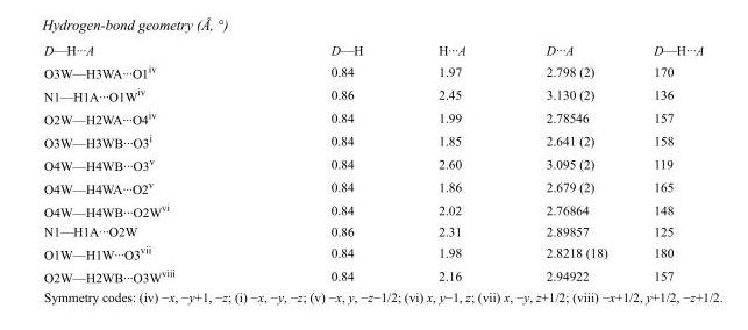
<table><tbody><tr><td>D—H···A</td><td>D—H</td><td>H···A</td><td>D···A</td><td>D—H···A</td></tr><tr><td>O3W—H3WA···O1<sup>iv</sup></td><td>0.84</td><td>1.97</td><td>2.798 (2)</td><td>170</td></tr><tr><td>N1—H1A···O1W<sup>iv</sup></td><td>0.86</td><td>2.45</td><td>3.130 (2)</td><td>136</td></tr><tr><td>O2W—H2WA···O4<sup>iv</sup></td><td>0.84</td><td>1.99</td><td>2.78546</td><td>157</td></tr><tr><td>O3W—H3WB···O3<sup>i</sup></td><td>0.84</td><td>1.85</td><td>2.641 (2)</td><td>158</td></tr><tr><td>O4W—H4WB···O3<sup>v</sup></td><td>0.84</td><td>2.60</td><td>3.095 (2)</td><td>119</td></tr><tr><td>O4W—H4WA···O2<sup>v</sup></td><td>0.84</td><td>1.86</td><td>2.679 (2)</td><td>165</td></tr><tr><td>O4W—H4WB···O2W<sup>vi</sup></td><td>0.84</td><td>2.02</td><td>2.76864</td><td>148</td></tr><tr><td>N1—H1A···O2W</td><td>0.86</td><td>2.31</td><td>2.89857</td><td>125</td></tr><tr><td>O1W—H1W···O3<sup>vii</sup></td><td>0.84</td><td>1.98</td><td>2.8218 (18)</td><td>180</td></tr><tr><td>O2W—H2WB···O3W<sup>viii</sup></td><td>0.84</td><td>2.16</td><td>2.94922</td><td>157</td></tr></tbody></table>